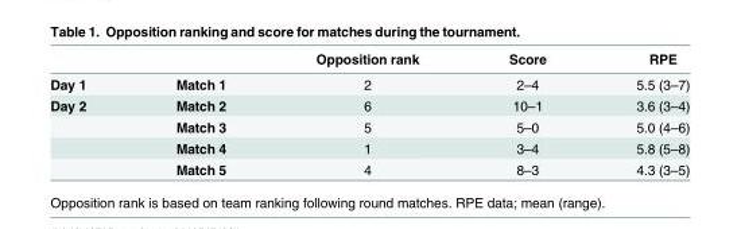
<table><thead><tr><td></td><td></td><td>Opposition rank</td><td>Score</td><td>RPE</td></tr></thead><tbody><tr><td>Day 1</td><td>Match 1</td><td>2</td><td>2–4</td><td>5.5 (3–7)</td></tr><tr><td rowspan="4">Day 2</td><td>Match 2</td><td>6</td><td>10–1</td><td>3.6 (3–4)</td></tr><tr><td>Match 3</td><td>5</td><td>5–0</td><td>5.0 (4–6)</td></tr><tr><td>Match 4</td><td>1</td><td>3–4</td><td>5.8 (5–8)</td></tr><tr><td>Match 5</td><td>4</td><td>8–3</td><td>4.3 (3–5)</td></tr></tbody></table>